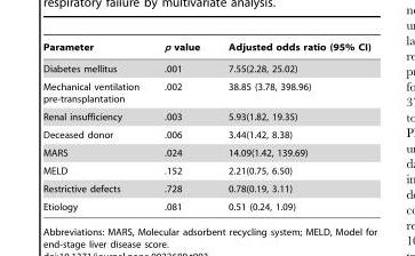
<table><thead><tr><td>Parameter</td><td>p value</td><td>Adjusted odds ratio (95% CI)</td></tr></thead><tbody><tr><td>Diabetes mellitus</td><td>.001</td><td>7.55(2.28, 25.02)</td></tr><tr><td>Mechanical ventilation pre-transplantation</td><td>.002</td><td>38.85 (3.78, 398.96)</td></tr><tr><td>Renal insufficiency</td><td>.003</td><td>5.93(1.82, 19.35)</td></tr><tr><td>Deceased donor</td><td>.006</td><td>3.44(1.42, 8.38)</td></tr><tr><td>MARS</td><td>.024</td><td>14.09(1.42, 139.69)</td></tr><tr><td>MELD</td><td>.152</td><td>2.21(0.75, 6.50)</td></tr><tr><td>Restrictive defects</td><td>.728</td><td>0.78(0.19, 3.11)</td></tr><tr><td>Etiology</td><td>.081</td><td>0.51 (0.24, 1.09)</td></tr></tbody></table>